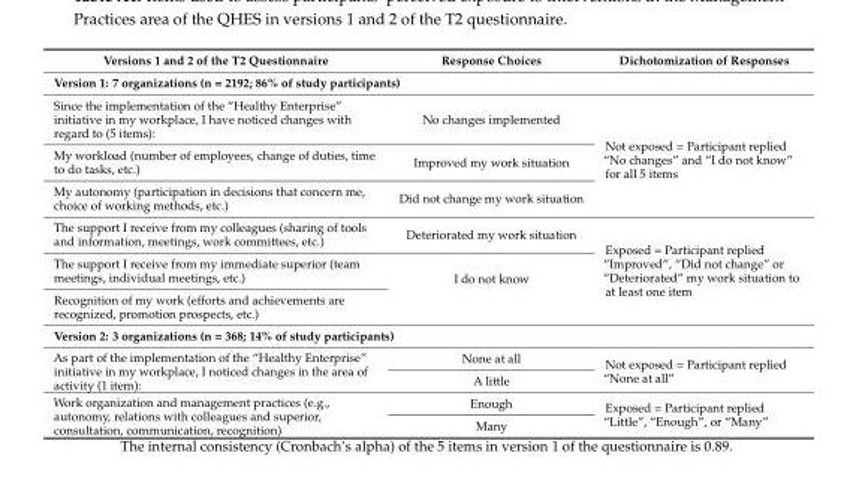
<table><thead><tr><td>Versions 1 and 2 of the T2 Questionnaire</td><td>Response Choices</td><td>Dichotomization of Responses</td></tr></thead><tbody><tr><td colspan="3">Version 1: 7 organizations (n = 2192; 86% of study participants)</td></tr><tr><td>Since the implementation of the “Healthy Enterprise” initiative in my workplace, I have noticed changes with regard to (5 items):</td><td>No changes implemented</td><td rowspan="3">Not exposed = Participant replied “No changes” and “I do not know” for all 5 items</td></tr><tr><td>My workload (number of employees, change of duties, time to do tasks, etc.)</td><td>Improved my work situation</td></tr><tr><td>My autonomy (participation in decisions that concern me, choice of working methods, etc.)</td><td>Did not change my work situation</td></tr><tr><td>The support I receive from my colleagues (sharing of tools and information, meetings, work committees, etc.)</td><td>Deteriorated my work situation</td><td rowspan="3">Exposed = Participant replied “Improved”, “Did not change” or “Deteriorated” my work situation to at least one item</td></tr><tr><td>The support I receive from my immediate superior (team meetings, individual meetings, etc.)</td><td rowspan="2">I do not know</td></tr><tr><td>Recognition of my work (efforts and achievements are recognized, promotion prospects, etc.)</td></tr><tr><td colspan="3">Version 2: 3 organizations (n = 368; 14% of study participants)</td></tr><tr><td rowspan="2">As part of the implementation of the “Healthy Enterprise” initiative in my workplace, I noticed changes in the area of activity (1 item):</td><td>None at all</td><td rowspan="2">Not exposed = Participant replied “None at all”</td></tr><tr><td>A little</td></tr><tr><td rowspan="2">Work organization and management practices (e.g., autonomy, relations with colleagues and superior, consultation, communication, recognition)</td><td>Enough</td><td rowspan="2">Exposed = Participant replied “Little”, “Enough”, or “Many”</td></tr><tr><td>Many</td></tr></tbody></table>